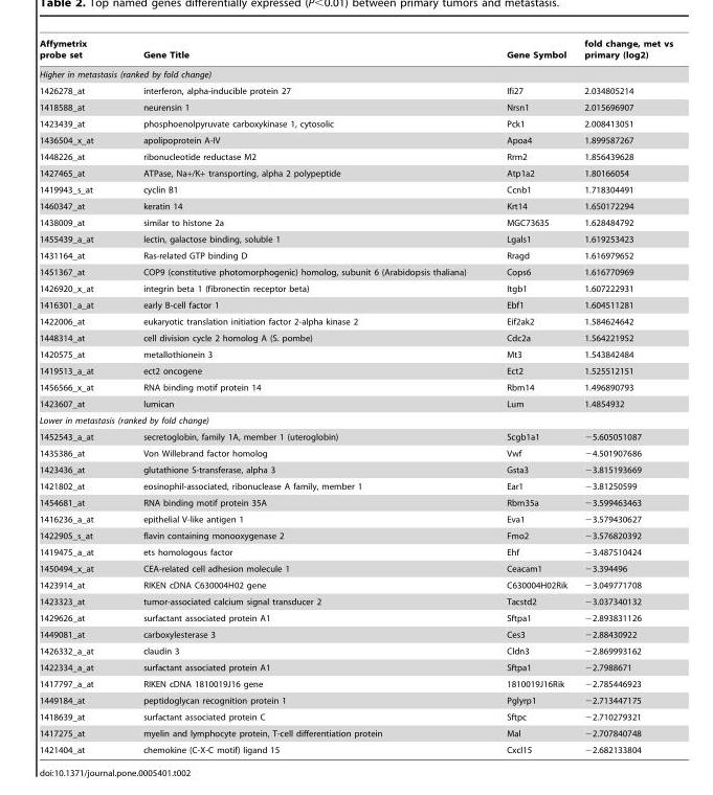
<table><thead><tr><td>Affymetrix probe set</td><td>Gene Title</td><td>Gene Symbol</td><td>fold change, met vs primary (log2)</td></tr></thead><tbody><tr><td colspan="4">Higher in metastasis (ranked by fold change)</td></tr><tr><td>1426278_at</td><td>interferon, alpha-inducible protein 27</td><td>Ifi27</td><td>2.034805214</td></tr><tr><td>1418588_at</td><td>neurensin 1</td><td>Nrsn1</td><td>2.015696907</td></tr><tr><td>1423439_at</td><td>phosphoenolpyruvate carboxykinase 1, cytosolic</td><td>Pck1</td><td>2.008413051</td></tr><tr><td>1436504_x_at</td><td>apolipoprotein A-IV</td><td>Apoa4</td><td>1.899587267</td></tr><tr><td>1448226_at</td><td>ribonucleotide reductase M2</td><td>Rrm2</td><td>1.856439628</td></tr><tr><td>1427465_at</td><td>ATPase, Na+/K+ transporting, alpha 2 polypeptide</td><td>Atp1a2</td><td>1.80166054</td></tr><tr><td>1419943_s_at</td><td>cyclin B1</td><td>Ccnb1</td><td>1.718304491</td></tr><tr><td>1460347_at</td><td>keratin 14</td><td>Krt14</td><td>1.650172294</td></tr><tr><td>1438009_at</td><td>similar to histone 2a</td><td>MGC73635</td><td>1.628484792</td></tr><tr><td>1455439_a_at</td><td>lectin, galactose binding, soluble 1</td><td>Lgals1</td><td>1.619253423</td></tr><tr><td>1431164_at</td><td>Ras-related GTP binding D</td><td>Rragd</td><td>1.616979652</td></tr><tr><td>1451367_at</td><td>COP9 (constitutive photomorphogenic) homolog, subunit 6 (Arabidopsis thaliana)</td><td>Cops6</td><td>1.616770969</td></tr><tr><td>1426920_x_at</td><td>integrin beta 1 (fibronectin receptor beta)</td><td>Itgb1</td><td>1.607222931</td></tr><tr><td>1416301_a_at</td><td>early B-cell factor 1</td><td>Ebf1</td><td>1.604511281</td></tr><tr><td>1422006_at</td><td>eukaryotic translation initiation factor 2-alpha kinase 2</td><td>Eif2ak2</td><td>1.584624642</td></tr><tr><td>1448314_at</td><td>cell division cycle 2 homolog A (S. pombe)</td><td>Cdc2a</td><td>1.564221952</td></tr><tr><td>1420575_at</td><td>metallothionein 3</td><td>Mt3</td><td>1.543842484</td></tr><tr><td>1419513_a_at</td><td>ect2 oncogene</td><td>Ect2</td><td>1.525512151</td></tr><tr><td>1456566_x_at</td><td>RNA binding motif protein 14</td><td>Rbm14</td><td>1.496890793</td></tr><tr><td>1423607_at</td><td>lumican</td><td>Lum</td><td>1.4854932</td></tr><tr><td colspan="4">Lower in metastasis (ranked by fold change)</td></tr><tr><td>1452543_a_at</td><td>secretoglobin, family 1A, member 1 (uteroglobin)</td><td>Scgb1a1</td><td>−5.605051087</td></tr><tr><td>1435386_at</td><td>Von Willebrand factor homolog</td><td>Vwf</td><td>−4.501907686</td></tr><tr><td>1423436_at</td><td>glutathione S-transferase, alpha 3</td><td>Gsta3</td><td>−3.815193669</td></tr><tr><td>1421802_at</td><td>eosinophil-associated, ribonuclease A family, member 1</td><td>Ear1</td><td>−3.81250599</td></tr><tr><td>1454681_at</td><td>RNA binding motif protein 35A</td><td>Rbm35a</td><td>−3.599463463</td></tr><tr><td>1416236_a_at</td><td>epithelial V-like antigen 1</td><td>Eva1</td><td>−3.579430627</td></tr><tr><td>1422905_s_at</td><td>flavin containing monooxygenase 2</td><td>Fmo2</td><td>−3.576820392</td></tr><tr><td>1419475_a_at</td><td>ets homologous factor</td><td>Ehf</td><td>−3.487510424</td></tr><tr><td>1450494_x_at</td><td>CEA-related cell adhesion molecule 1</td><td>Ceacam1</td><td>−3.394496</td></tr><tr><td>1423914_at</td><td>RIKEN cDNA C630004H02 gene</td><td>C630004H02Rik</td><td>−3.049771708</td></tr><tr><td>1423323_at</td><td>tumor-associated calcium signal transducer 2</td><td>Tacstd2</td><td>−3.037340132</td></tr><tr><td>1429626_at</td><td>surfactant associated protein A1</td><td>Sftpa1</td><td>−2.893831126</td></tr><tr><td>1449081_at</td><td>carboxylesterase 3</td><td>Ces3</td><td>−2.88430922</td></tr><tr><td>1426332_a_at</td><td>claudin 3</td><td>Cldn3</td><td>−2.869993162</td></tr><tr><td>1422334_a_at</td><td>surfactant associated protein A1</td><td>Sftpa1</td><td>−2.7988671</td></tr><tr><td>1417797_a_at</td><td>RIKEN cDNA 1810019J16 gene</td><td>1810019J16Rik</td><td>−2.785446923</td></tr><tr><td>1449184_at</td><td>peptidoglycan recognition protein 1</td><td>Pglyrp1</td><td>−2.713447175</td></tr><tr><td>1418639_at</td><td>surfactant associated protein C</td><td>Sftpc</td><td>−2.710279321</td></tr><tr><td>1417275_at</td><td>myelin and lymphocyte protein, T-cell differentiation protein</td><td>Mal</td><td>−2.707840748</td></tr><tr><td>1421404_at</td><td>chemokine (C-X-C motif) ligand 15</td><td>Cxcl15</td><td>−2.682133804</td></tr></tbody></table>